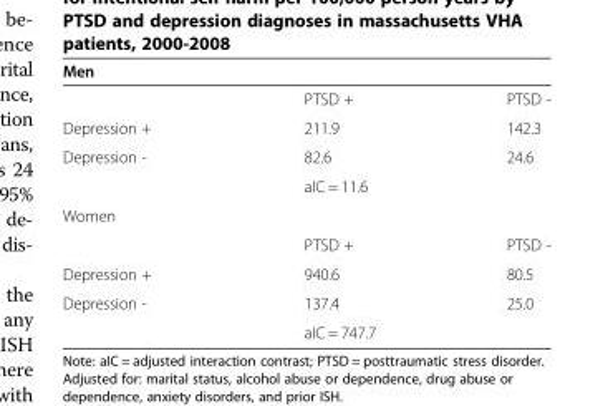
<table><thead><tr><td colspan="3">Men</td></tr><tr><td></td><td>PTSD +</td><td>PTSD -</td></tr></thead><tbody><tr><td>Depression +</td><td>211.9</td><td>142.3</td></tr><tr><td rowspan="2">Depression -</td><td>82.6</td><td>24.6</td></tr><tr><td colspan="2">aIC = 11.6</td></tr><tr><td colspan="3">Women</td></tr><tr><td></td><td>PTSD +</td><td>PTSD -</td></tr><tr><td>Depression +</td><td>940.6</td><td>80.5</td></tr><tr><td rowspan="2">Depression -</td><td>137.4</td><td>25.0</td></tr><tr><td colspan="2">aIC = 747.7</td></tr></tbody></table>